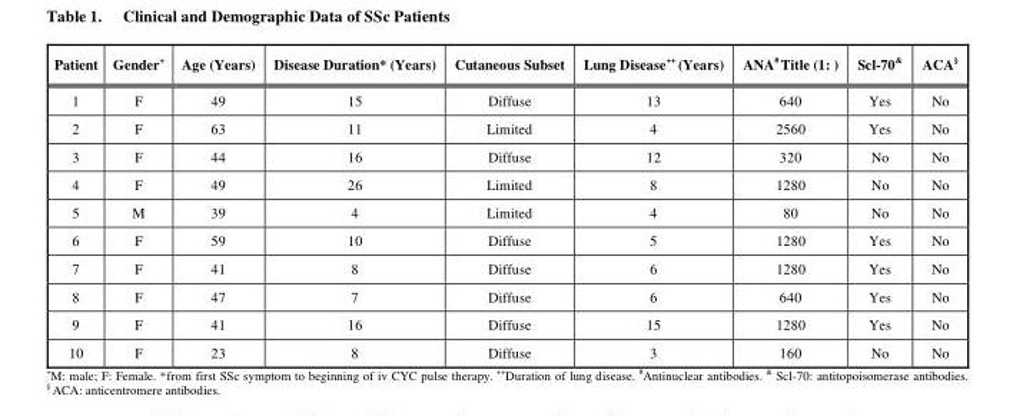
<table><thead><tr><td>Patient</td><td>Gender+</td><td>Age (Years)</td><td>Disease Duration* (Years)</td><td>Cutaneous Subset</td><td>Lung Disease++ (Years)</td><td>ANA# Title (1: )</td><td>Scl-70&amp;</td><td>ACA§</td></tr></thead><tbody><tr><td>1</td><td>F</td><td>49</td><td>15</td><td>Diffuse</td><td>13</td><td>640</td><td>Yes</td><td>No</td></tr><tr><td>2</td><td>F</td><td>63</td><td>11</td><td>Limited</td><td>4</td><td>2560</td><td>Yes</td><td>No</td></tr><tr><td>3</td><td>F</td><td>44</td><td>16</td><td>Diffuse</td><td>12</td><td>320</td><td>No</td><td>No</td></tr><tr><td>4</td><td>F</td><td>49</td><td>26</td><td>Limited</td><td>8</td><td>1280</td><td>No</td><td>No</td></tr><tr><td>5</td><td>M</td><td>39</td><td>4</td><td>Limited</td><td>4</td><td>80</td><td>No</td><td>No</td></tr><tr><td>6</td><td>F</td><td>59</td><td>10</td><td>Diffuse</td><td>5</td><td>1280</td><td>Yes</td><td>No</td></tr><tr><td>7</td><td>F</td><td>41</td><td>8</td><td>Diffuse</td><td>6</td><td>1280</td><td>Yes</td><td>No</td></tr><tr><td>8</td><td>F</td><td>47</td><td>7</td><td>Diffuse</td><td>6</td><td>640</td><td>Yes</td><td>No</td></tr><tr><td>9</td><td>F</td><td>41</td><td>16</td><td>Diffuse</td><td>15</td><td>1280</td><td>Yes</td><td>No</td></tr><tr><td>10</td><td>F</td><td>23</td><td>8</td><td>Diffuse</td><td>3</td><td>160</td><td>No</td><td>No</td></tr></tbody></table>